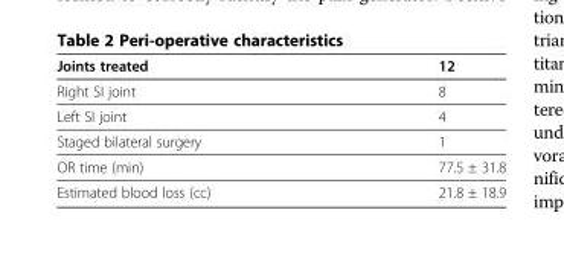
<table><thead><tr><td>Joints treated</td><td>12</td></tr></thead><tbody><tr><td>Right SI joint</td><td>8</td></tr><tr><td>Left SI joint</td><td>4</td></tr><tr><td>Staged bilateral surgery</td><td>1</td></tr><tr><td>OR time (min)</td><td>77.5 ± 31.8</td></tr><tr><td>Estimated blood loss (cc)</td><td>21.8 ± 18.9</td></tr></tbody></table>